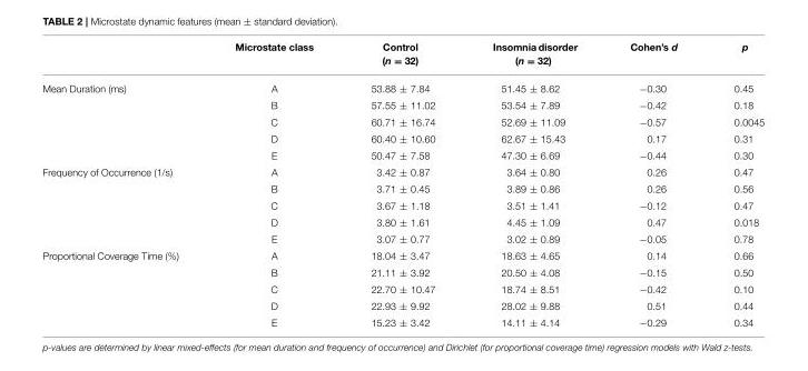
<table><thead><tr><td></td><td>Microstate class</td><td>Control (n = 32)</td><td>Insomnia disorder (n = 32)</td><td>Cohen’s d</td><td>p</td></tr></thead><tbody><tr><td rowspan="5">Mean Duration (ms)</td><td>A</td><td>53.88 ± 7.84</td><td>51.45 ± 8.62</td><td>−0.30</td><td>0.45</td></tr><tr><td>B</td><td>57.55 ± 11.02</td><td>53.54 ± 7.89</td><td>−0.42</td><td>0.18</td></tr><tr><td>C</td><td>60.71 ± 16.74</td><td>52.69 ± 11.09</td><td>−0.57</td><td>0.0045</td></tr><tr><td>D</td><td>60.40 ± 10.60</td><td>62.67 ± 15.43</td><td>0.17</td><td>0.31</td></tr><tr><td>E</td><td>50.47 ± 7.58</td><td>47.30 ± 6.69</td><td>−0.44</td><td>0.30</td></tr><tr><td rowspan="5">Frequency of Occurrence (1/s)</td><td>A</td><td>3.42 ± 0.87</td><td>3.64 ± 0.80</td><td>0.26</td><td>0.47</td></tr><tr><td>B</td><td>3.71 ± 0.45</td><td>3.89 ± 0.86</td><td>0.26</td><td>0.56</td></tr><tr><td>C</td><td>3.67 ± 1.18</td><td>3.51 ± 1.41</td><td>−0.12</td><td>0.47</td></tr><tr><td>D</td><td>3.80 ± 1.61</td><td>4.45 ± 1.09</td><td>0.47</td><td>0.018</td></tr><tr><td>E</td><td>3.07 ± 0.77</td><td>3.02 ± 0.89</td><td>−0.05</td><td>0.78</td></tr><tr><td rowspan="5">Proportional Coverage Time (%)</td><td>A</td><td>18.04 ± 3.47</td><td>18.63 ± 4.65</td><td>0.14</td><td>0.66</td></tr><tr><td>B</td><td>21.11 ± 3.92</td><td>20.50 ± 4.08</td><td>−0.15</td><td>0.50</td></tr><tr><td>C</td><td>22.70 ± 10.47</td><td>18.74 ± 8.51</td><td>−0.42</td><td>0.10</td></tr><tr><td>D</td><td>22.93 ± 9.92</td><td>28.02 ± 9.88</td><td>0.51</td><td>0.44</td></tr><tr><td>E</td><td>15.23 ± 3.42</td><td>14.11 ± 4.14</td><td>−0.29</td><td>0.34</td></tr></tbody></table>